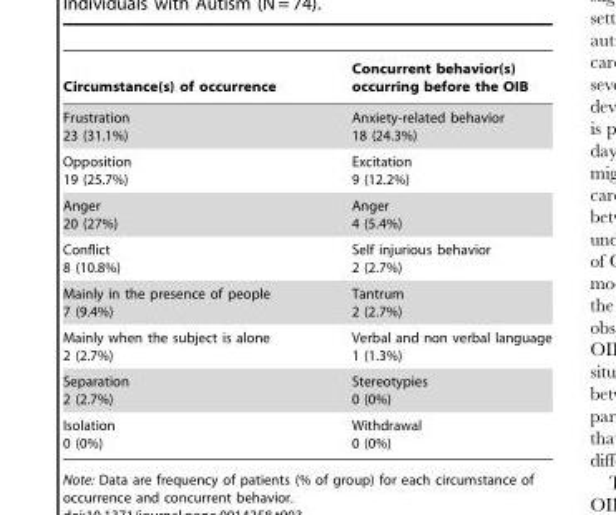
<table><thead><tr><td>Circumstance(s) of occurrence</td><td>Concurrent behavior(s) occurring before the OIB</td></tr></thead><tbody><tr><td>Frustration 23 (31.1%)</td><td>Anxiety-related behavior 18 (24.3%)</td></tr><tr><td>Opposition 19 (25.7%)</td><td>Excitation 9 (12.2%)</td></tr><tr><td>Anger 20 (27%)</td><td>Anger 4 (5.4%)</td></tr><tr><td>Conflict 8 (10.8%)</td><td>Self injurious behavior 2 (2.7%)</td></tr><tr><td>Mainly in the presence of people 7 (9.4%)</td><td>Tantrum 2 (2.7%)</td></tr><tr><td>Mainly when the subject is alone 2 (2.7%)</td><td>Verbal and non verbal language 1 (1.3%)</td></tr><tr><td>Separation 2 (2.7%)</td><td>Stereotypies 0 (0%)</td></tr><tr><td>Isolation 0 (0%)</td><td>Withdrawal 0 (0%)</td></tr></tbody></table>